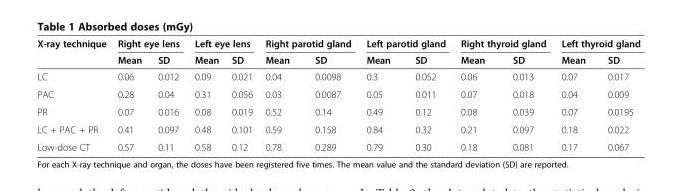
<table><thead><tr><td rowspan="2">X-ray technique</td><td colspan="2">Right eye lens</td><td colspan="2">Left eye lens</td><td colspan="2">Right parotid gland</td><td colspan="2">Left parotid gland</td><td colspan="2">Right thyroid gland</td><td colspan="2">Left thyroid gland</td></tr><tr><td>Mean</td><td>SD</td><td>Mean</td><td>SD</td><td>Mean</td><td>SD</td><td>Mean</td><td>SD</td><td>Mean</td><td>SD</td><td>Mean</td><td>SD</td></tr></thead><tbody><tr><td>LC</td><td>0.06</td><td>0.012</td><td>0.09</td><td>0.021</td><td>0.04</td><td>0.0098</td><td>0.3</td><td>0.052</td><td>0.06</td><td>0.013</td><td>0.07</td><td>0.017</td></tr><tr><td>PAC</td><td>0.28</td><td>0.04</td><td>0.31</td><td>0.056</td><td>0.03</td><td>0.0087</td><td>0.05</td><td>0.011</td><td>0.07</td><td>0.018</td><td>0.04</td><td>0.009</td></tr><tr><td>PR</td><td>0.07</td><td>0.016</td><td>0.08</td><td>0.019</td><td>0.52</td><td>0.14</td><td>0.49</td><td>0.12</td><td>0.08</td><td>0.039</td><td>0.07</td><td>0.0195</td></tr><tr><td>LC + PAC + PR</td><td>0.41</td><td>0.097</td><td>0.48</td><td>0.101</td><td>0.59</td><td>0.158</td><td>0.84</td><td>0.32</td><td>0.21</td><td>0.097</td><td>0.18</td><td>0.022</td></tr><tr><td>Low-dose CT</td><td>0.57</td><td>0.11</td><td>0.58</td><td>0.12</td><td>0.78</td><td>0.289</td><td>0.79</td><td>0.30</td><td>0.18</td><td>0.081</td><td>0.17</td><td>0.067</td></tr></tbody></table>